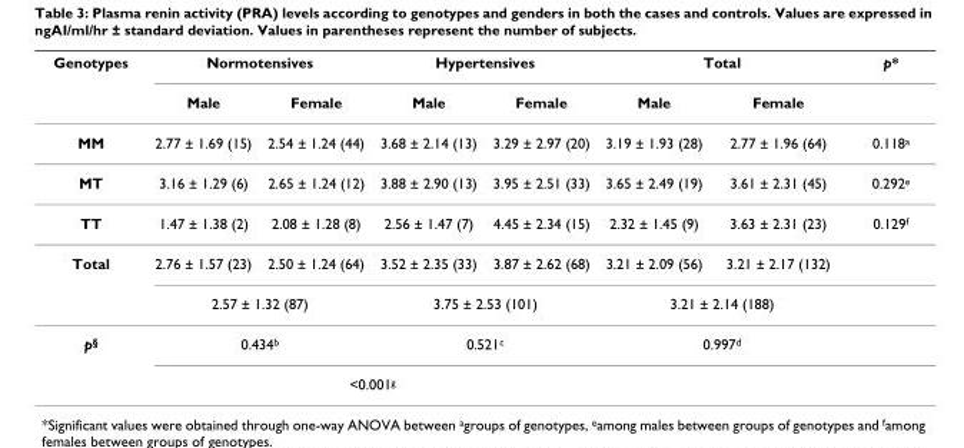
<table><thead><tr><td rowspan="2">Genotypes</td><td colspan="2">Normotensives</td><td colspan="2">Hypertensives</td><td colspan="2">Total</td><td rowspan="2">p*</td></tr><tr><td>Male</td><td>Female</td><td>Male</td><td>Female</td><td>Male</td><td>Female</td></tr></thead><tbody><tr><td>MM</td><td>2.77 ± 1.69 (15)</td><td>2.54 ± 1.24 (44)</td><td>3.68 ± 2.14 (13)</td><td>3.29 ± 2.97 (20)</td><td>3.19 ± 1.93 (28)</td><td>2.77 ± 1.96 (64)</td><td>0.118<sup>a</sup></td></tr><tr><td>MT</td><td>3.16 ± 1.29 (6)</td><td>2.65 ± 1.24 (12)</td><td>3.88 ± 2.90 (13)</td><td>3.95 ± 2.51 (33)</td><td>3.65 ± 2.49 (19)</td><td>3.61 ± 2.31 (45)</td><td>0.292<sup>e</sup></td></tr><tr><td>TT</td><td>1.47 ± 1.38 (2)</td><td>2.08 ± 1.28 (8)</td><td>2.56 ± 1.47 (7)</td><td>4.45 ± 2.34 (15)</td><td>2.32 ± 1.45 (9)</td><td>3.63 ± 2.31 (23)</td><td>0.129<sup>f</sup></td></tr><tr><td rowspan="2">Total</td><td>2.76 ± 1.57 (23)</td><td>2.50 ± 1.24 (64)</td><td>3.52 ± 2.35 (33)</td><td>3.87 ± 2.62 (68)</td><td>3.21 ± 2.09 (56)</td><td>3.21 ± 2.17 (132)</td><td></td></tr><tr><td colspan="2">2.57 ± 1.32 (87)</td><td colspan="2">3.75 ± 2.53 (101)</td><td colspan="2">3.21 ± 2.14 (188)</td><td></td></tr><tr><td rowspan="2">p<sup>§</sup></td><td colspan="2">0.434<sup>b</sup></td><td colspan="2">0.521<sup>c</sup></td><td colspan="2">0.997<sup>d</sup></td><td></td></tr><tr><td colspan="4">&lt;0.001<sup>g</sup></td><td></td><td></td><td></td></tr></tbody></table>